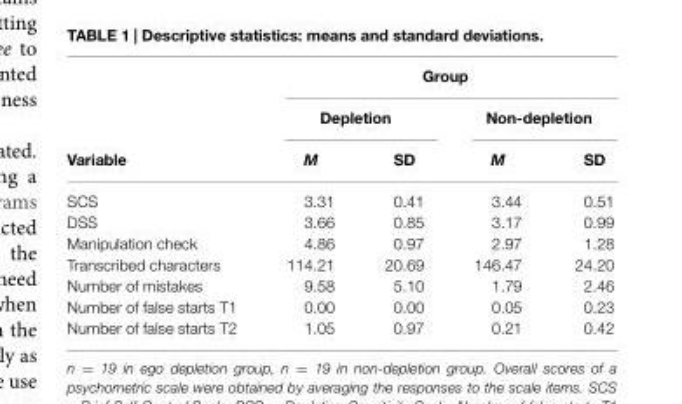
<table><thead><tr><td rowspan="3">Variable</td><td colspan="4">Group</td></tr><tr><td colspan="2">Depletion</td><td colspan="2">Non-depletion</td></tr><tr><td>M</td><td>SD</td><td>M</td><td>SD</td></tr></thead><tbody><tr><td>SCS</td><td>3.31</td><td>0.41</td><td>3.44</td><td>0.51</td></tr><tr><td>DSS</td><td>3.66</td><td>0.85</td><td>3.17</td><td>0.99</td></tr><tr><td>Manipulation check</td><td>4.86</td><td>0.97</td><td>2.97</td><td>1.28</td></tr><tr><td>Transcribed characters</td><td>114.21</td><td>20.69</td><td>146.47</td><td>24.20</td></tr><tr><td>Number of mistakes</td><td>9.58</td><td>5.10</td><td>1.79</td><td>2.46</td></tr><tr><td>Number of false starts T1</td><td>0.00</td><td>0.00</td><td>0.05</td><td>0.23</td></tr><tr><td>Number of false starts T2</td><td>1.05</td><td>0.97</td><td>0.21</td><td>0.42</td></tr></tbody></table>